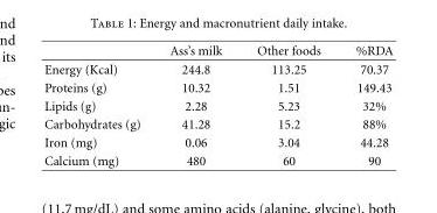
<table><thead><tr><td></td><td>Ass’s milk</td><td>Other foods</td><td>%RDA</td></tr></thead><tbody><tr><td>Energy (Kcal)</td><td>244.8</td><td>113.25</td><td>70.37</td></tr><tr><td>Proteins (g)</td><td>10.32</td><td>1.51</td><td>149.43</td></tr><tr><td>Lipids (g)</td><td>2.28</td><td>5.23</td><td>32%</td></tr><tr><td>Carbohydrates (g)</td><td>41.28</td><td>15.2</td><td>88%</td></tr><tr><td>Iron (mg)</td><td>0.06</td><td>3.04</td><td>44.28</td></tr><tr><td>Calcium (mg)</td><td>480</td><td>60</td><td>90</td></tr></tbody></table>